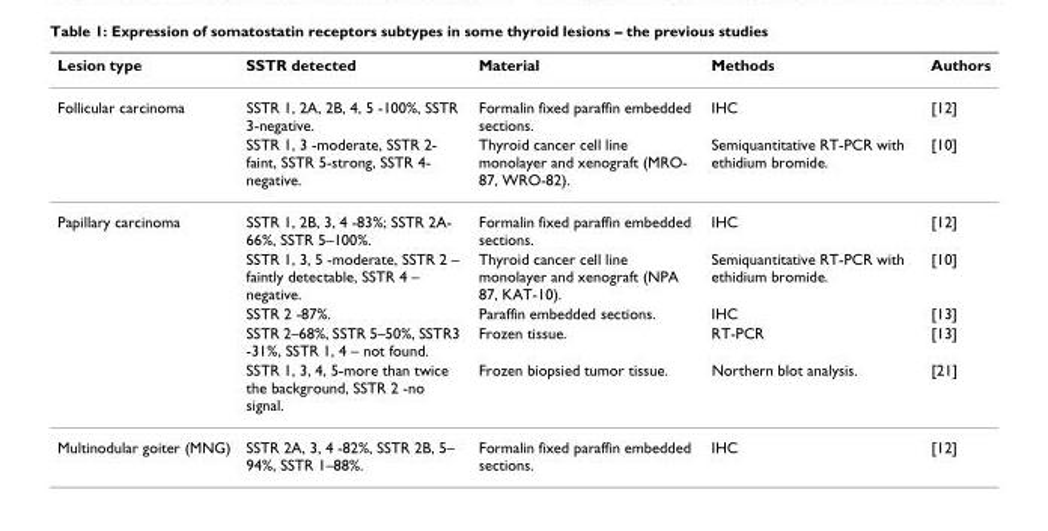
<table><thead><tr><td>Lesion type</td><td>SSTR detected</td><td>Material</td><td>Methods</td><td>Authors</td></tr></thead><tbody><tr><td rowspan="2">Follicular carcinoma</td><td>SSTR 1, 2A, 2B, 4, 5 -100%, SSTR 3-negative.</td><td>Formalin fixed paraffin embedded sections.</td><td>IHC</td><td>[12]</td></tr><tr><td>SSTR 1, 3 -moderate, SSTR 2- faint, SSTR 5-strong, SSTR 4- negative.</td><td>Thyroid cancer cell line monolayer and xenograft (MRO- 87, WRO-82).</td><td>Semiquantitative RT-PCR with ethidium bromide.</td><td>[10]</td></tr><tr><td rowspan="5">Papillary carcinoma</td><td>SSTR 1, 2B, 3, 4 -83%; SSTR 2A- 66%, SSTR 5–100%.</td><td>Formalin fixed paraffin embedded sections.</td><td>IHC</td><td>[12]</td></tr><tr><td>SSTR 1, 3, 5 -moderate, SSTR 2 – faintly detectable, SSTR 4 – negative.</td><td>Thyroid cancer cell line monolayer and xenograft (NPA 87, KAT-10).</td><td>Semiquantitative RT-PCR with ethidium bromide.</td><td>[10]</td></tr><tr><td>SSTR 2 -87%.</td><td>Paraffin embedded sections.</td><td>IHC</td><td>[13]</td></tr><tr><td>SSTR 2–68%, SSTR 5–50%, SSTR3 -31%, SSTR 1, 4 – not found.</td><td>Frozen tissue.</td><td>RT-PCR</td><td>[13]</td></tr><tr><td>SSTR 1, 3, 4, 5-more than twice the background, SSTR 2 -no signal.</td><td>Frozen biopsied tumor tissue.</td><td>Northern blot analysis.</td><td>[21]</td></tr><tr><td>Multinodular goiter (MNG)</td><td>SSTR 2A, 3, 4 -82%, SSTR 2B, 5– 94%, SSTR 1–88%.</td><td>Formalin fixed paraffin embedded sections.</td><td>IHC</td><td>[12]</td></tr></tbody></table>